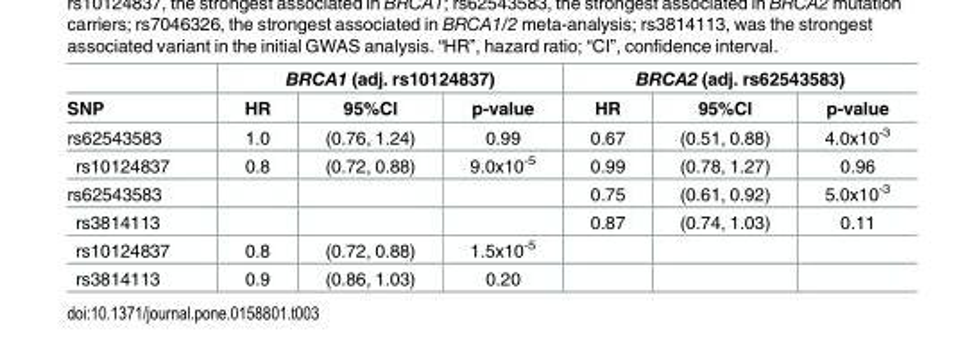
<table><thead><tr><td rowspan="2">SNP</td><td colspan="3">BRCA1 (adj. rs10124837)</td><td colspan="3">BRCA2 (adj. rs62543583)</td></tr><tr><td>HR</td><td>95%CI</td><td>p-value</td><td>HR</td><td>95%CI</td><td>p-value</td></tr></thead><tbody><tr><td>rs62543583</td><td>1.0</td><td>(0.76, 1.24)</td><td>0.99</td><td>0.67</td><td>(0.51, 0.88)</td><td>4.0x10<sup>-3</sup></td></tr><tr><td>rs10124837</td><td>0.8</td><td>(0.72, 0.88)</td><td>9.0x10<sup>-5</sup></td><td>0.99</td><td>(0.78, 1.27)</td><td>0.96</td></tr><tr><td>rs62543583</td><td></td><td></td><td></td><td>0.75</td><td>(0.61, 0.92)</td><td>5.0x10<sup>-3</sup></td></tr><tr><td>rs3814113</td><td></td><td></td><td></td><td>0.87</td><td>(0.74, 1.03)</td><td>0.11</td></tr><tr><td>rs10124837</td><td>0.8</td><td>(0.72, 0.88)</td><td>1.5x10<sup>-5</sup></td><td></td><td></td><td></td></tr><tr><td>rs3814113</td><td>0.9</td><td>(0.86, 1.03)</td><td>0.20</td><td></td><td></td><td></td></tr></tbody></table>